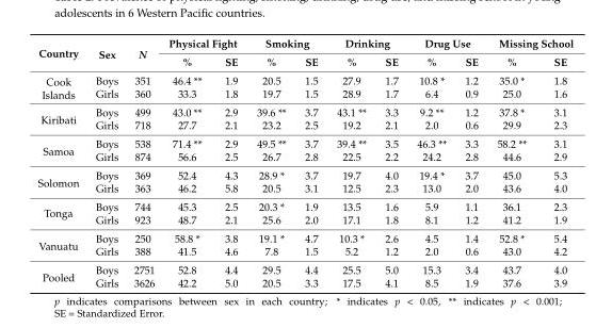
<table><thead><tr><td rowspan="2">Country</td><td rowspan="2">Sex</td><td rowspan="2">N</td><td colspan="2">Physical Fight</td><td colspan="2">Smoking</td><td colspan="2">Drinking</td><td colspan="2">Drug Use</td><td colspan="2">Missing School</td></tr><tr><td>%</td><td>SE</td><td>%</td><td>SE</td><td>%</td><td>SE</td><td>%</td><td>SE</td><td>%</td><td>SE</td></tr></thead><tbody><tr><td rowspan="2">Cook Islands</td><td>Boys</td><td>351</td><td>46.4 **</td><td>1.9</td><td>20.5</td><td>1.5</td><td>27.9</td><td>1.7</td><td>10.8 *</td><td>1.2</td><td>35.0 *</td><td>1.8</td></tr><tr><td>Girls</td><td>360</td><td>33.3</td><td>1.8</td><td>19.7</td><td>1.5</td><td>28.9</td><td>1.7</td><td>6.4</td><td>0.9</td><td>25.0</td><td>1.6</td></tr><tr><td rowspan="2">Kiribati</td><td>Boys</td><td>499</td><td>43.0 **</td><td>2.9</td><td>39.6 **</td><td>3.7</td><td>43.1 **</td><td>3.3</td><td>9.2 **</td><td>1.2</td><td>37.8 *</td><td>3.1</td></tr><tr><td>Girls</td><td>718</td><td>27.7</td><td>2.1</td><td>23.2</td><td>2.5</td><td>19.2</td><td>2.1</td><td>2.0</td><td>0.6</td><td>29.9</td><td>2.3</td></tr><tr><td rowspan="2">Samoa</td><td>Boys</td><td>538</td><td>71.4 **</td><td>2.9</td><td>49.5 **</td><td>3.7</td><td>39.4 **</td><td>3.5</td><td>46.3 **</td><td>3.3</td><td>58.2 **</td><td>3.1</td></tr><tr><td>Girls</td><td>874</td><td>56.6</td><td>2.5</td><td>26.7</td><td>2.8</td><td>22.5</td><td>2.2</td><td>24.2</td><td>2.8</td><td>44.6</td><td>2.9</td></tr><tr><td rowspan="2">Solomon</td><td>Boys</td><td>369</td><td>52.4</td><td>4.3</td><td>28.9 *</td><td>3.7</td><td>19.7</td><td>4.0</td><td>19.4 *</td><td>3.7</td><td>45.0</td><td>5.3</td></tr><tr><td>Girls</td><td>363</td><td>46.2</td><td>5.8</td><td>20.5</td><td>3.1</td><td>12.5</td><td>2.3</td><td>13.0</td><td>2.0</td><td>43.6</td><td>4.0</td></tr><tr><td rowspan="2">Tonga</td><td>Boys</td><td>744</td><td>45.3</td><td>2.5</td><td>20.3 *</td><td>1.9</td><td>13.5</td><td>1.6</td><td>5.9</td><td>1.1</td><td>36.1</td><td>2.3</td></tr><tr><td>Girls</td><td>923</td><td>48.7</td><td>2.1</td><td>25.6</td><td>2.0</td><td>17.1</td><td>1.8</td><td>8.1</td><td>1.2</td><td>41.2</td><td>1.9</td></tr><tr><td rowspan="2">Vanuatu</td><td>Boys</td><td>250</td><td>58.8 *</td><td>3.8</td><td>19.1 *</td><td>4.7</td><td>10.3 *</td><td>2.6</td><td>4.5</td><td>1.4</td><td>52.8 *</td><td>5.4</td></tr><tr><td>Girls</td><td>388</td><td>41.5</td><td>4.6</td><td>7.8</td><td>1.5</td><td>5.2</td><td>1.2</td><td>2.0</td><td>0.6</td><td>43.0</td><td>4.2</td></tr><tr><td rowspan="2">Pooled</td><td>Boys</td><td>2751</td><td>52.8</td><td>4.4</td><td>29.5</td><td>4.4</td><td>25.5</td><td>5.0</td><td>15.3</td><td>3.4</td><td>43.7</td><td>4.0</td></tr><tr><td>Girls</td><td>3626</td><td>42.2</td><td>5.0</td><td>20.5</td><td>3.3</td><td>17.5</td><td>4.1</td><td>8.5</td><td>1.9</td><td>37.6</td><td>3.9</td></tr></tbody></table>